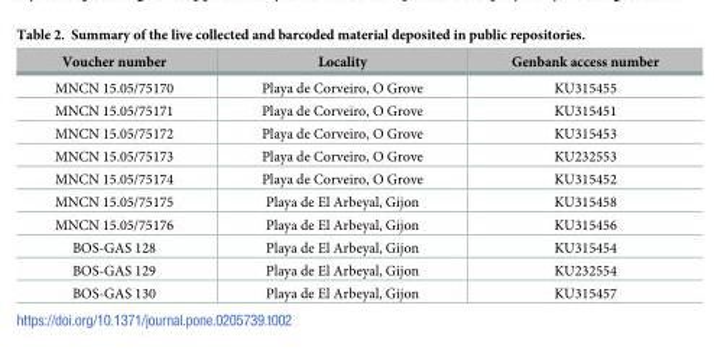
<table><thead><tr><td>Voucher number</td><td>Locality</td><td>Genbank access number</td></tr></thead><tbody><tr><td>MNCN 15.05/75170</td><td>Playa de Corveiro, O Grove</td><td>KU315455</td></tr><tr><td>MNCN 15.05/75171</td><td>Playa de Corveiro, O Grove</td><td>KU315451</td></tr><tr><td>MNCN 15.05/75172</td><td>Playa de Corveiro, O Grove</td><td>KU315453</td></tr><tr><td>MNCN 15.05/75173</td><td>Playa de Corveiro, O Grove</td><td>KU232553</td></tr><tr><td>MNCN 15.05/75174</td><td>Playa de Corveiro, O Grove</td><td>KU315452</td></tr><tr><td>MNCN 15.05/75175</td><td>Playa de El Arbeyal, Gijon</td><td>KU315458</td></tr><tr><td>MNCN 15.05/75176</td><td>Playa de El Arbeyal, Gijon</td><td>KU315456</td></tr><tr><td>BOS-GAS 128</td><td>Playa de El Arbeyal, Gijon</td><td>KU315454</td></tr><tr><td>BOS-GAS 129</td><td>Playa de El Arbeyal, Gijon</td><td>KU232554</td></tr><tr><td>BOS-GAS 130</td><td>Playa de El Arbeyal, Gijon</td><td>KU315457</td></tr></tbody></table>